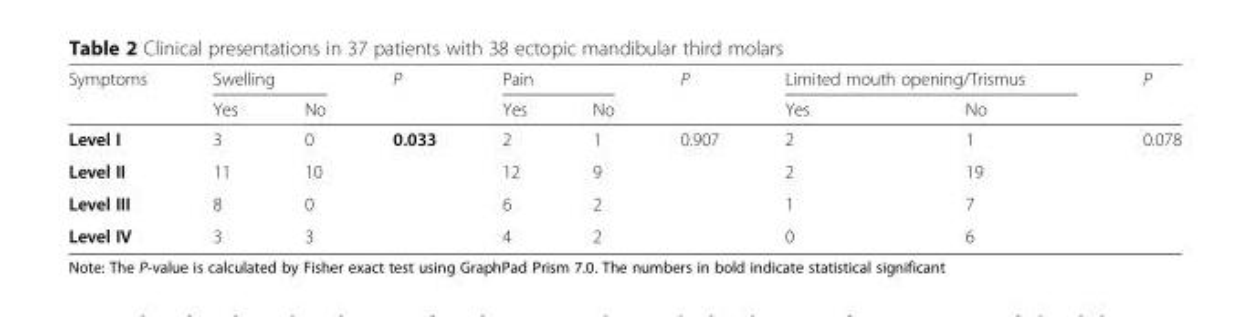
<table><thead><tr><td rowspan="2">Symptoms</td><td colspan="2">Swelling</td><td rowspan="2">P</td><td colspan="2">Pain</td><td rowspan="2">P</td><td colspan="2">Limited mouth opening/Trismus</td><td rowspan="2">P</td></tr><tr><td>Yes</td><td>No</td><td>Yes</td><td>No</td><td>Yes</td><td>No</td></tr></thead><tbody><tr><td>Level I</td><td>3</td><td>0</td><td>0.033</td><td>2</td><td>1</td><td>0.907</td><td>2</td><td>1</td><td>0.078</td></tr><tr><td>Level II</td><td>11</td><td>10</td><td></td><td>12</td><td>9</td><td></td><td>2</td><td>19</td><td></td></tr><tr><td>Level III</td><td>8</td><td>0</td><td></td><td>6</td><td>2</td><td></td><td>1</td><td>7</td><td></td></tr><tr><td>Level IV</td><td>3</td><td>3</td><td></td><td>4</td><td>2</td><td></td><td>0</td><td>6</td><td></td></tr></tbody></table>